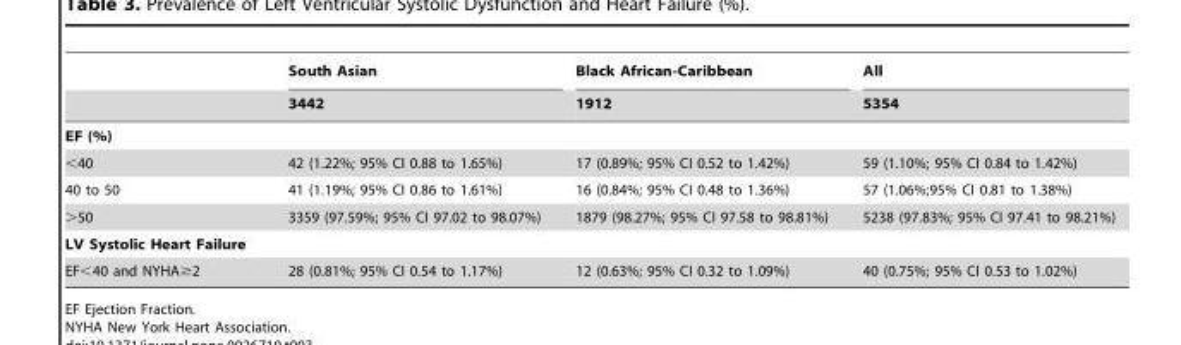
<table><thead><tr><td rowspan="2"></td><td rowspan="2">South Asian 3442</td><td rowspan="2">Black African-Caribbean 1912</td><td rowspan="2">All 5354</td></tr><tr></tr></thead><tbody><tr><td colspan="4">EF (%)</td></tr><tr><td>&lt;40</td><td>42 (1.22%; 95% CI 0.88 to 1.65%)</td><td>17 (0.89%; 95% CI 0.52 to 1.42%)</td><td>59 (1.10%; 95% CI 0.84 to 1.42%)</td></tr><tr><td>40 to 50</td><td>41 (1.19%; 95% CI 0.86 to 1.61%)</td><td>16 (0.84%; 95% CI 0.48 to 1.36%)</td><td>57 (1.06%;95% CI 0.81 to 1.38%)</td></tr><tr><td>&gt;50</td><td>3359 (97.59%; 95% CI 97.02 to 98.07%)</td><td>1879 (98.27%; 95% CI 97.58 to 98.81%)</td><td>5238 (97.83%; 95% CI 97.41 to 98.21%)</td></tr><tr><td colspan="4">LV Systolic Heart Failure</td></tr><tr><td>EF&lt;40 and NYHA≥2</td><td>28 (0.81%; 95% CI 0.54 to 1.17%)</td><td>12 (0.63%; 95% CI 0.32 to 1.09%)</td><td>40 (0.75%; 95% CI 0.53 to 1.02%)</td></tr></tbody></table>